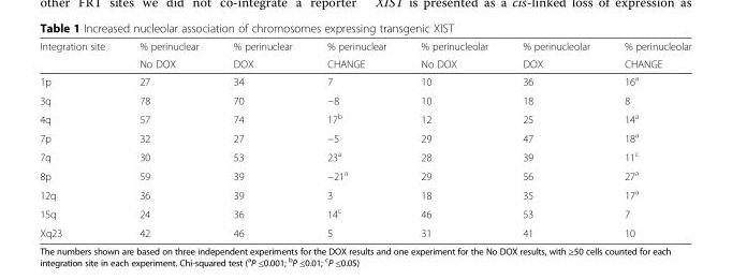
<table><thead><tr><td rowspan="2">Integration site</td><td rowspan="2">% perinuclear No DOX</td><td rowspan="2">% perinuclear DOX</td><td rowspan="2">% perinuclear CHANGE</td><td rowspan="2">% perinucleolar No DOX</td><td rowspan="2">% perinucleolar DOX</td><td rowspan="2">% perinucleolar CHANGE</td></tr><tr></tr></thead><tbody><tr><td>1p</td><td>27</td><td>34</td><td>7</td><td>10</td><td>36</td><td>16<sup>a</sup></td></tr><tr><td>3q</td><td>78</td><td>70</td><td>−8</td><td>10</td><td>18</td><td>8</td></tr><tr><td>4q</td><td>57</td><td>74</td><td>17<sup>b</sup></td><td>12</td><td>25</td><td>14<sup>a</sup></td></tr><tr><td>7p</td><td>32</td><td>27</td><td>−5</td><td>29</td><td>47</td><td>18<sup>a</sup></td></tr><tr><td>7q</td><td>30</td><td>53</td><td>23<sup>a</sup></td><td>28</td><td>39</td><td>11<sup>c</sup></td></tr><tr><td>8p</td><td>59</td><td>39</td><td>−21<sup>a</sup></td><td>29</td><td>56</td><td>27<sup>a</sup></td></tr><tr><td>12q</td><td>36</td><td>39</td><td>3</td><td>18</td><td>35</td><td>17<sup>a</sup></td></tr><tr><td>15q</td><td>24</td><td>36</td><td>14<sup>c</sup></td><td>46</td><td>53</td><td>7</td></tr><tr><td>Xq23</td><td>42</td><td>46</td><td>5</td><td>31</td><td>41</td><td>10</td></tr></tbody></table>